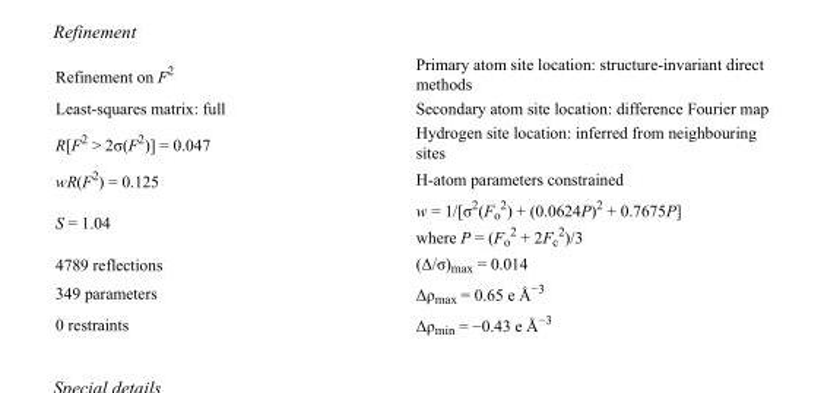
<table><tbody><tr><td>Refinement on F<sup>2</sup></td><td>Primary atom site location: structure-invariant direct methods</td></tr><tr><td>Least-squares matrix: full</td><td>Secondary atom site location: difference Fourier map</td></tr><tr><td>R[F<sup>2</sup> &gt; 2σ(F<sup>2</sup>)] = 0.047</td><td>Hydrogen site location: inferred from neighbouring sites</td></tr><tr><td>wR(F<sup>2</sup>) = 0.125</td><td>H-atom parameters constrained</td></tr><tr><td>S = 1.04</td><td>w = 1/[σ<sup>2</sup>(F<sub>o</sub> <sup>2</sup>) + (0.0624P)<sup>2</sup> + 0.7675P] where P = (F<sub>o</sub> <sup>2</sup> + 2F<sub>c</sub> <sup>2</sup>)/3</td></tr><tr><td>4789 reflections</td><td>(Δ/σ)<sub>max</sub> = 0.014</td></tr><tr><td>349 parameters</td><td>Δρ<sub>max</sub> = 0.65 e Å<sup>−3</sup></td></tr><tr><td>0 restraints</td><td>Δρ<sub>min</sub> = −0.43 e Å<sup>−3</sup></td></tr></tbody></table>